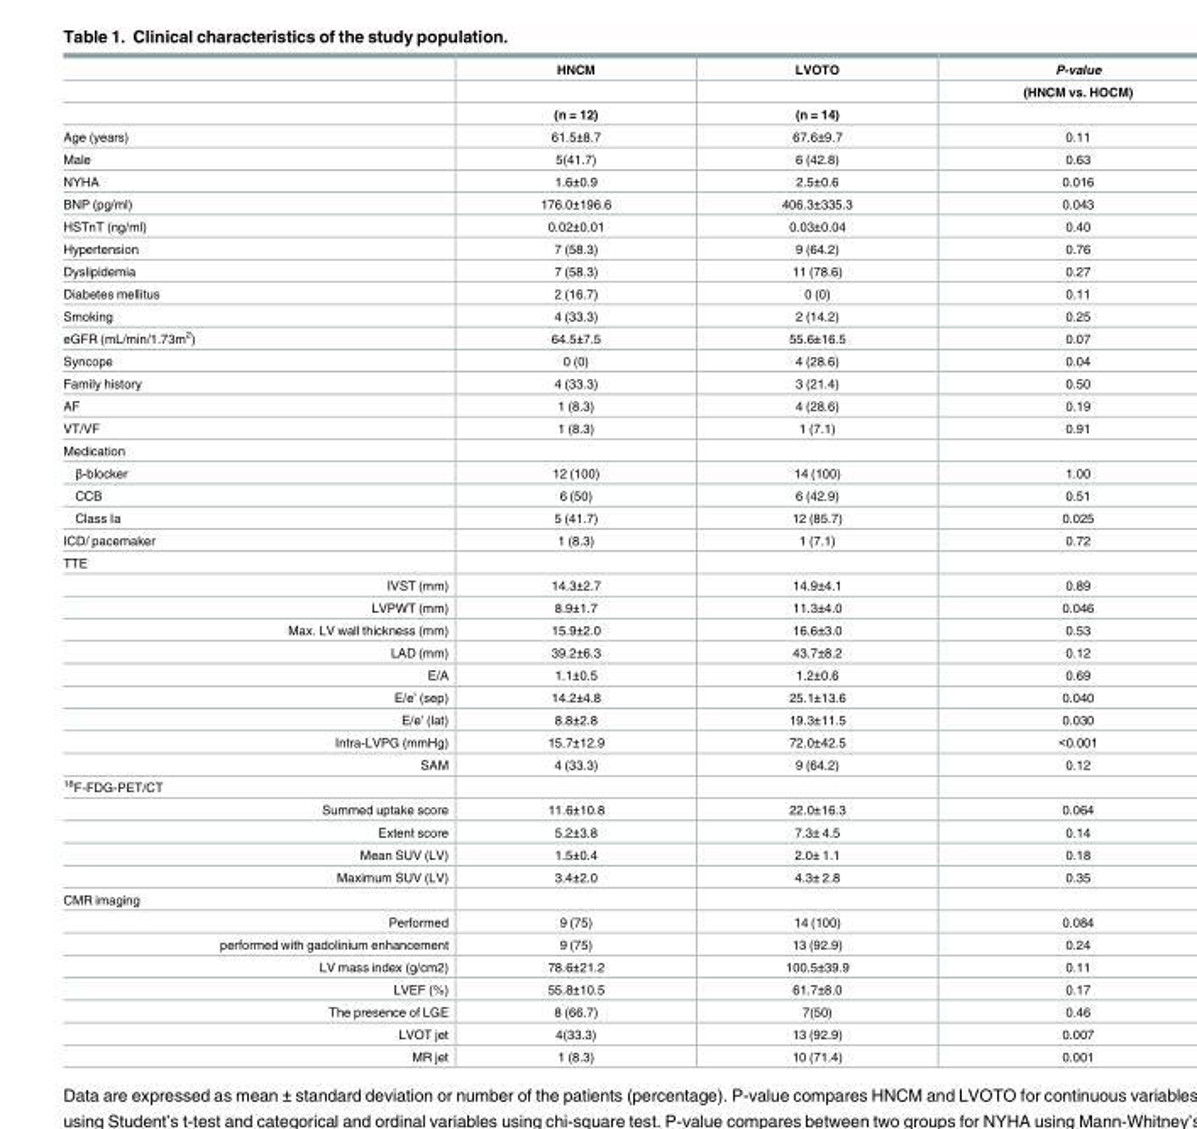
<table><thead><tr><td rowspan="3"></td><td rowspan="3">HNCM (n = 12)</td><td rowspan="3">LVOTO (n = 14)</td><td rowspan="3">P-value (HNCM vs. HOCM)</td></tr><tr></tr><tr></tr></thead><tbody><tr><td>Age (years)</td><td>61.5±8.7</td><td>67.6±9.7</td><td>0.11</td></tr><tr><td>Male</td><td>5(41.7)</td><td>6 (42.8)</td><td>0.63</td></tr><tr><td>NYHA</td><td>1.6±0.9</td><td>2.5±0.6</td><td>0.016</td></tr><tr><td>BNP (pg/ml)</td><td>176.0±196.6</td><td>406.3±335.3</td><td>0.043</td></tr><tr><td>HSTnT (ng/ml)</td><td>0.02±0.01</td><td>0.03±0.04</td><td>0.40</td></tr><tr><td>Hypertension</td><td>7 (58.3)</td><td>9 (64.2)</td><td>0.76</td></tr><tr><td>Dyslipidemia</td><td>7 (58.3)</td><td>11 (78.6)</td><td>0.27</td></tr><tr><td>Diabetes mellitus</td><td>2 (16.7)</td><td>0 (0)</td><td>0.11</td></tr><tr><td>Smoking</td><td>4 (33.3)</td><td>2 (14.2)</td><td>0.25</td></tr><tr><td>eGFR (mL/min/1.73m<sup>2</sup>)</td><td>64.5±7.5</td><td>55.6±16.5</td><td>0.07</td></tr><tr><td>Syncope</td><td>0 (0)</td><td>4 (28.6)</td><td>0.04</td></tr><tr><td>Family history</td><td>4 (33.3)</td><td>3 (21.4)</td><td>0.50</td></tr><tr><td>AF</td><td>1 (8.3)</td><td>4 (28.6)</td><td>0.19</td></tr><tr><td>VT/VF</td><td>1 (8.3)</td><td>1 (7.1)</td><td>0.91</td></tr><tr><td colspan="4">Medication</td></tr><tr><td>β-blocker</td><td>12 (100)</td><td>14 (100)</td><td>1.00</td></tr><tr><td>CCB</td><td>6 (50)</td><td>6 (42.9)</td><td>0.51</td></tr><tr><td>Class Ia</td><td>5 (41.7)</td><td>12 (85.7)</td><td>0.025</td></tr><tr><td>ICD/ pacemaker</td><td>1 (8.3)</td><td>1 (7.1)</td><td>0.72</td></tr><tr><td colspan="4">TTE</td></tr><tr><td>IVST (mm)</td><td>14.3±2.7</td><td>14.9±4.1</td><td>0.89</td></tr><tr><td>LVPWT (mm)</td><td>8.9±1.7</td><td>11.3±4.0</td><td>0.046</td></tr><tr><td>Max. LV wall thickness (mm)</td><td>15.9±2.0</td><td>16.6±3.0</td><td>0.53</td></tr><tr><td>LAD (mm)</td><td>39.2±6.3</td><td>43.7±8.2</td><td>0.12</td></tr><tr><td>E/A</td><td>1.1±0.5</td><td>1.2±0.6</td><td>0.69</td></tr><tr><td>E/e’ (sep)</td><td>14.2±4.8</td><td>25.1±13.6</td><td>0.040</td></tr><tr><td>E/e’ (lat)</td><td>8.8±2.8</td><td>19.3±11.5</td><td>0.030</td></tr><tr><td>Intra-LVPG (mmHg)</td><td>15.7±12.9</td><td>72.0±42.5</td><td>&lt;0.001</td></tr><tr><td>SAM</td><td>4 (33.3)</td><td>9 (64.2)</td><td>0.12</td></tr><tr><td colspan="4"><sup>18</sup>F-FDG-PET/CT</td></tr><tr><td>Summed uptake score</td><td>11.6±10.8</td><td>22.0±16.3</td><td>0.064</td></tr><tr><td>Extent score</td><td>5.2±3.8</td><td>7.3± 4.5</td><td>0.14</td></tr><tr><td>Mean SUV (LV)</td><td>1.5±0.4</td><td>2.0± 1.1</td><td>0.18</td></tr><tr><td>Maximum SUV (LV)</td><td>3.4±2.0</td><td>4.3± 2.8</td><td>0.35</td></tr><tr><td colspan="4">CMR imaging</td></tr><tr><td>Performed</td><td>9 (75)</td><td>14 (100)</td><td>0.084</td></tr><tr><td>performed with gadolinium enhancement</td><td>9 (75)</td><td>13 (92.9)</td><td>0.24</td></tr><tr><td>LV mass index (g/cm2)</td><td>78.6±21.2</td><td>100.5±39.9</td><td>0.11</td></tr><tr><td>LVEF (%)</td><td>55.8±10.5</td><td>61.7±8.0</td><td>0.17</td></tr><tr><td>The presence of LGE</td><td>8 (66.7)</td><td>7(50)</td><td>0.46</td></tr><tr><td>LVOT jet</td><td>4(33.3)</td><td>13 (92.9)</td><td>0.007</td></tr><tr><td>MR jet</td><td>1 (8.3)</td><td>10 (71.4)</td><td>0.001</td></tr></tbody></table>